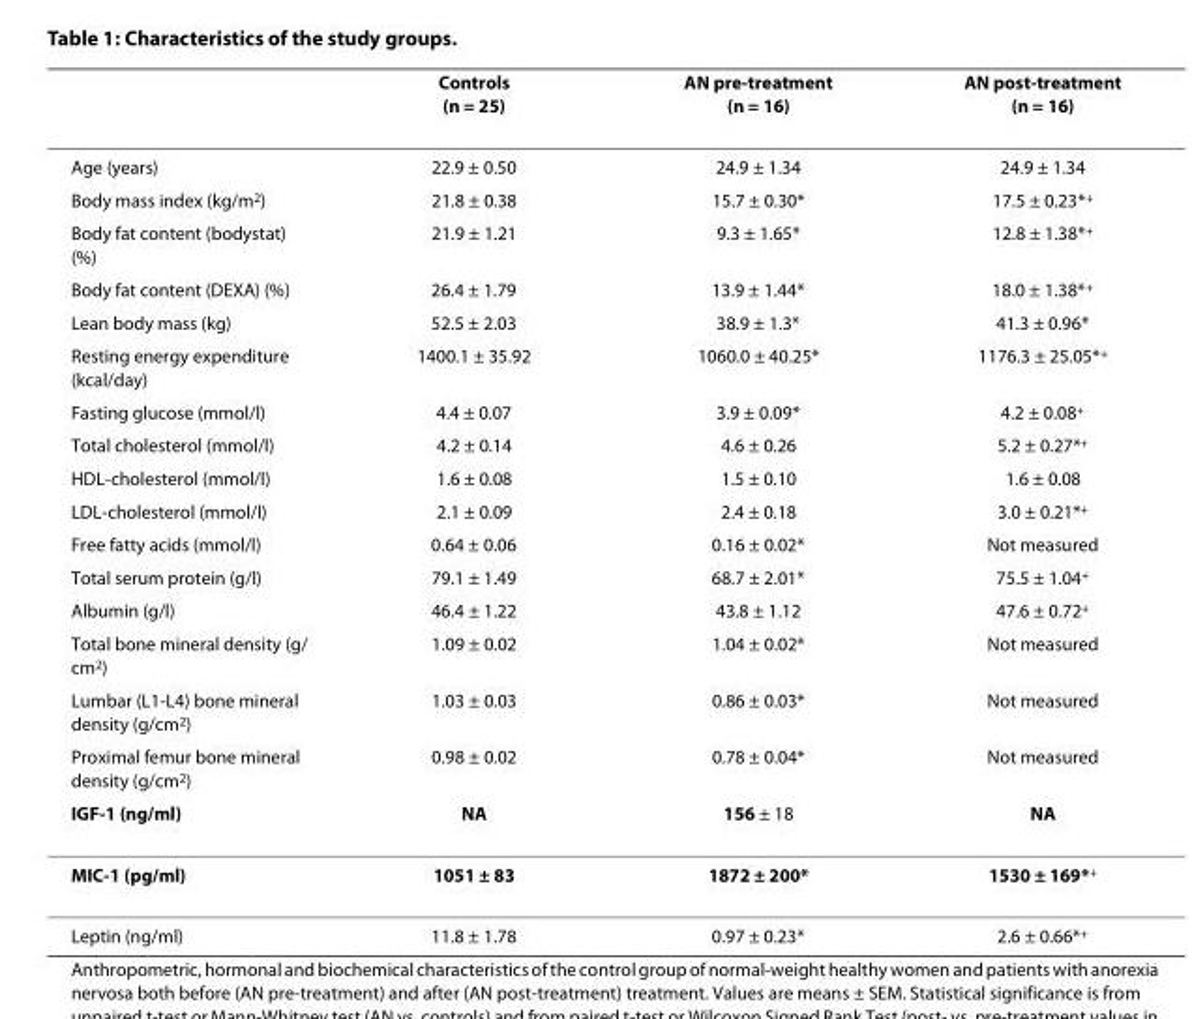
<table><thead><tr><td></td><td>Controls (n = 25)</td><td>AN pre-treatment (n = 16)</td><td>AN post-treatment (n = 16)</td></tr></thead><tbody><tr><td>Age (years)</td><td>22.9 ± 0.50</td><td>24.9 ± 1.34</td><td>24.9 ± 1.34</td></tr><tr><td>Body mass index (kg/m<sup>2</sup>)</td><td>21.8 ± 0.38</td><td>15.7 ± 0.30*</td><td>17.5 ± 0.23*<sup>+</sup></td></tr><tr><td>Body fat content (bodystat) (%)</td><td>21.9 ± 1.21</td><td>9.3 ± 1.65*</td><td>12.8 ± 1.38*<sup>+</sup></td></tr><tr><td>Body fat content (DEXA) (%)</td><td>26.4 ± 1.79</td><td>13.9 ± 1.44*</td><td>18.0 ± 1.38*<sup>+</sup></td></tr><tr><td>Lean body mass (kg)</td><td>52.5 ± 2.03</td><td>38.9 ± 1.3*</td><td>41.3 ± 0.96*</td></tr><tr><td>Resting energy expenditure (kcal/day)</td><td>1400.1 ± 35.92</td><td>1060.0 ± 40.25*</td><td>1176.3 ± 25.05*<sup>+</sup></td></tr><tr><td>Fasting glucose (mmol/l)</td><td>4.4 ± 0.07</td><td>3.9 ± 0.09*</td><td>4.2 ± 0.08<sup>+</sup></td></tr><tr><td>Total cholesterol (mmol/l)</td><td>4.2 ± 0.14</td><td>4.6 ± 0.26</td><td>5.2 ± 0.27*<sup>+</sup></td></tr><tr><td>HDL-cholesterol (mmol/l)</td><td>1.6 ± 0.08</td><td>1.5 ± 0.10</td><td>1.6 ± 0.08</td></tr><tr><td>LDL-cholesterol (mmol/l)</td><td>2.1 ± 0.09</td><td>2.4 ± 0.18</td><td>3.0 ± 0.21*<sup>+</sup></td></tr><tr><td>Free fatty acids (mmol/l)</td><td>0.64 ± 0.06</td><td>0.16 ± 0.02*</td><td>Not measured</td></tr><tr><td>Total serum protein (g/l)</td><td>79.1 ± 1.49</td><td>68.7 ± 2.01*</td><td>75.5 ± 1.04<sup>+</sup></td></tr><tr><td>Albumin (g/l)</td><td>46.4 ± 1.22</td><td>43.8 ± 1.12</td><td>47.6 ± 0.72<sup>+</sup></td></tr><tr><td>Total bone mineral density (g/ cm<sup>2</sup>)</td><td>1.09 ± 0.02</td><td>1.04 ± 0.02*</td><td>Not measured</td></tr><tr><td>Lumbar (L1-L4) bone mineral density (g/cm<sup>2</sup>)</td><td>1.03 ± 0.03</td><td>0.86 ± 0.03*</td><td>Not measured</td></tr><tr><td>Proximal femur bone mineral density (g/cm<sup>2</sup>)</td><td>0.98 ± 0.02</td><td>0.78 ± 0.04*</td><td>Not measured</td></tr><tr><td>IGF-1 (ng/ml)</td><td>NA</td><td>156 ± 18</td><td>NA</td></tr><tr><td>MIC-1 (pg/ml)</td><td>1051 ± 83</td><td>1872 ± 200*</td><td>1530 ± 169*<sup>+</sup></td></tr><tr><td>Leptin (ng/ml)</td><td>11.8 ± 1.78</td><td>0.97 ± 0.23*</td><td>2.6 ± 0.66*<sup>+</sup></td></tr></tbody></table>